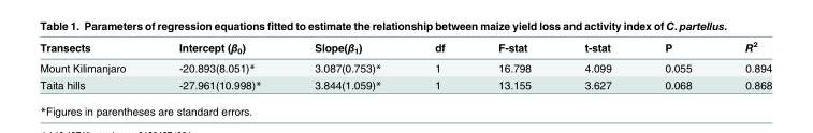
<table><thead><tr><td>Transects</td><td>Intercept (β<sub>0</sub>)</td><td>Slope(β<sub>1</sub>)</td><td>df</td><td>F-stat</td><td>t-stat</td><td>P</td><td>R<sup>2</sup></td></tr></thead><tbody><tr><td>Mount Kilimanjaro</td><td>-20.893(8.051)*</td><td>3.087(0.753)*</td><td>1</td><td>16.798</td><td>4.099</td><td>0.055</td><td>0.894</td></tr><tr><td>Taita hills</td><td>-27.961(10.998)*</td><td>3.844(1.059)*</td><td>1</td><td>13.155</td><td>3.627</td><td>0.068</td><td>0.868</td></tr></tbody></table>